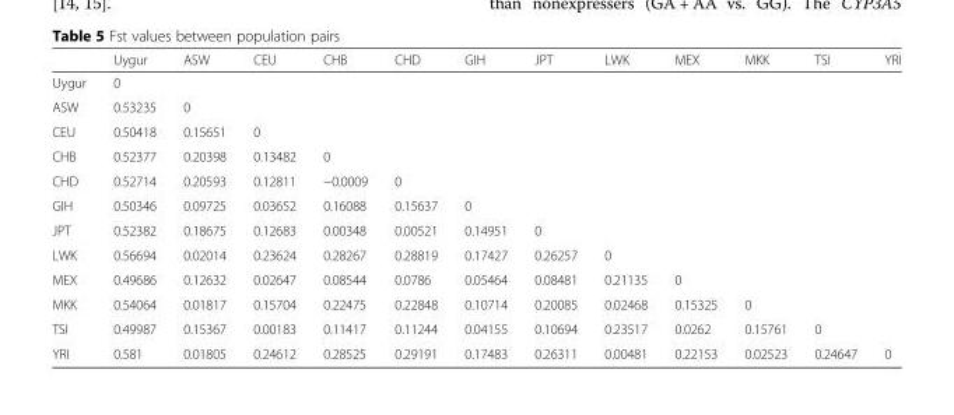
<table><thead><tr><td></td><td>Uygur</td><td>ASW</td><td>CEU</td><td>CHB</td><td>CHD</td><td>GIH</td><td>JPT</td><td>LWK</td><td>MEX</td><td>MKK</td><td>TSI</td><td>YRI</td></tr></thead><tbody><tr><td>Uygur</td><td>0</td><td></td><td></td><td></td><td></td><td></td><td></td><td></td><td></td><td></td><td></td><td></td></tr><tr><td>ASW</td><td>0.53235</td><td>0</td><td></td><td></td><td></td><td></td><td></td><td></td><td></td><td></td><td></td><td></td></tr><tr><td>CEU</td><td>0.50418</td><td>0.15651</td><td>0</td><td></td><td></td><td></td><td></td><td></td><td></td><td></td><td></td><td></td></tr><tr><td>CHB</td><td>0.52377</td><td>0.20398</td><td>0.13482</td><td>0</td><td></td><td></td><td></td><td></td><td></td><td></td><td></td><td></td></tr><tr><td>CHD</td><td>0.52714</td><td>0.20593</td><td>0.12811</td><td>−0.0009</td><td>0</td><td></td><td></td><td></td><td></td><td></td><td></td><td></td></tr><tr><td>GIH</td><td>0.50346</td><td>0.09725</td><td>0.03652</td><td>0.16088</td><td>0.15637</td><td>0</td><td></td><td></td><td></td><td></td><td></td><td></td></tr><tr><td>JPT</td><td>0.52382</td><td>0.18675</td><td>0.12683</td><td>0.00348</td><td>0.00521</td><td>0.14951</td><td>0</td><td></td><td></td><td></td><td></td><td></td></tr><tr><td>LWK</td><td>0.56694</td><td>0.02014</td><td>0.23624</td><td>0.28267</td><td>0.28819</td><td>0.17427</td><td>0.26257</td><td>0</td><td></td><td></td><td></td><td></td></tr><tr><td>MEX</td><td>0.49686</td><td>0.12632</td><td>0.02647</td><td>0.08544</td><td>0.0786</td><td>0.05464</td><td>0.08481</td><td>0.21135</td><td>0</td><td></td><td></td><td></td></tr><tr><td>MKK</td><td>0.54064</td><td>0.01817</td><td>0.15704</td><td>0.22475</td><td>0.22848</td><td>0.10714</td><td>0.20085</td><td>0.02468</td><td>0.15325</td><td>0</td><td></td><td></td></tr><tr><td>TSI</td><td>0.49987</td><td>0.15367</td><td>0.00183</td><td>0.11417</td><td>0.11244</td><td>0.04155</td><td>0.10694</td><td>0.23517</td><td>0.0262</td><td>0.15761</td><td>0</td><td></td></tr><tr><td>YRI</td><td>0.581</td><td>0.01805</td><td>0.24612</td><td>0.28525</td><td>0.29191</td><td>0.17483</td><td>0.26311</td><td>0.00481</td><td>0.22153</td><td>0.02523</td><td>0.24647</td><td>0</td></tr></tbody></table>